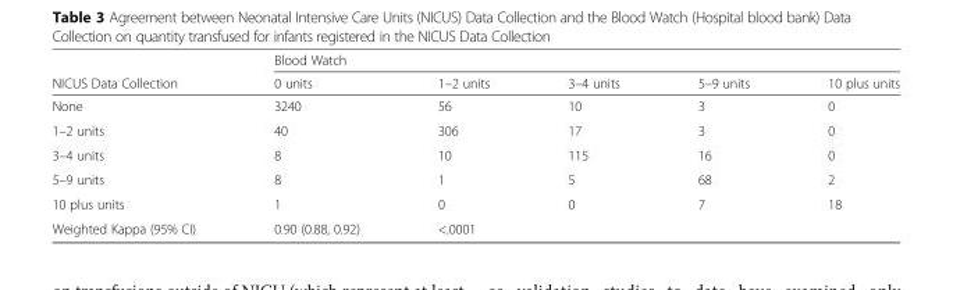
<table><thead><tr><td rowspan="2">NICUS Data Collection</td><td colspan="5">Blood Watch</td></tr><tr><td>0 units</td><td>1–2 units</td><td>3–4 units</td><td>5–9 units</td><td>10 plus units</td></tr></thead><tbody><tr><td>None</td><td>3240</td><td>56</td><td>10</td><td>3</td><td>0</td></tr><tr><td>1–2 units</td><td>40</td><td>306</td><td>17</td><td>3</td><td>0</td></tr><tr><td>3–4 units</td><td>8</td><td>10</td><td>115</td><td>16</td><td>0</td></tr><tr><td>5–9 units</td><td>8</td><td>1</td><td>5</td><td>68</td><td>2</td></tr><tr><td>10 plus units</td><td>1</td><td>0</td><td>0</td><td>7</td><td>18</td></tr><tr><td>Weighted Kappa (95% CI)</td><td>0.90 (0.88, 0.92)</td><td>&lt;.0001</td><td></td><td></td><td></td></tr></tbody></table>